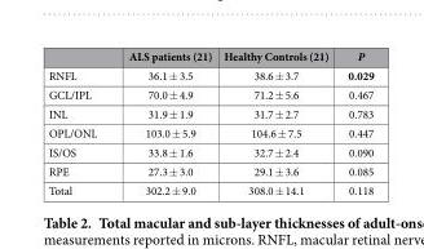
<table><thead><tr><td></td><td>ALS patients (21)</td><td>Healthy Controls (21)</td><td>P</td></tr></thead><tbody><tr><td>RNFL</td><td>36.1 ± 3.5</td><td>38.6 ± 3.7</td><td>0.029</td></tr><tr><td>GCL/IPL</td><td>70.0 ± 4.9</td><td>71.2 ± 5.6</td><td>0.467</td></tr><tr><td>INL</td><td>31.9 ± 1.9</td><td>31.7 ± 2.7</td><td>0.783</td></tr><tr><td>OPL/ONL</td><td>103.0 ± 5.9</td><td>104.6 ± 7.5</td><td>0.447</td></tr><tr><td>IS/OS</td><td>33.8 ± 1.6</td><td>32.7 ± 2.4</td><td>0.090</td></tr><tr><td>RPE</td><td>27.3 ± 3.0</td><td>29.1 ± 3.6</td><td>0.085</td></tr><tr><td>Total</td><td>302.2 ± 9.0</td><td>308.0 ± 14.1</td><td>0.118</td></tr></tbody></table>